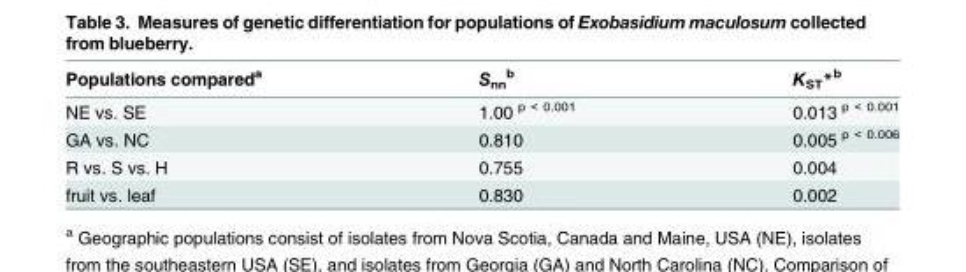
<table><thead><tr><td>Populations compared<sup>a</sup></td><td>S<sub>nn</sub> <sup>b</sup></td><td>K<sub>ST</sub>*<sup>b</sup></td></tr></thead><tbody><tr><td>NE vs. SE</td><td>1.00 <sup>p &lt; 0.001</sup></td><td>0.013 <sup>p &lt; 0.001</sup></td></tr><tr><td>GA vs. NC</td><td>0.810</td><td>0.005 <sup>p &lt; 0.006</sup></td></tr><tr><td>R vs. S vs. H</td><td>0.755</td><td>0.004</td></tr><tr><td>fruit vs. leaf</td><td>0.830</td><td>0.002</td></tr></tbody></table>